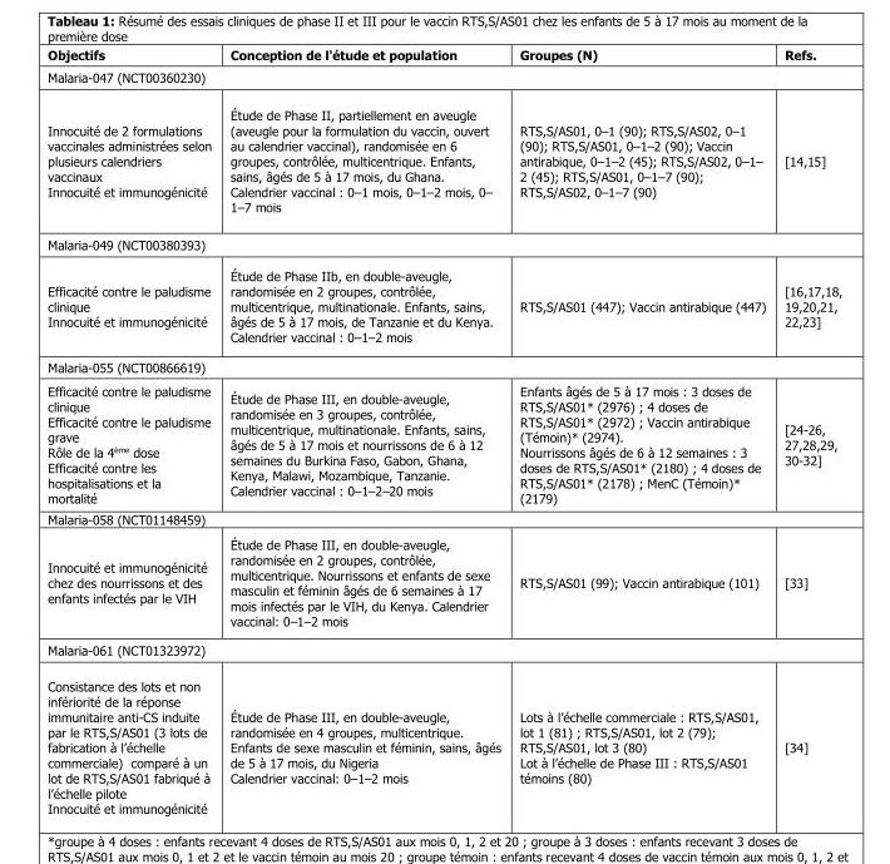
<table><thead><tr><td>Objectifs</td><td>Conception de l&#x27;étude et population</td><td>Groupes (N)</td><td>Refs.</td></tr></thead><tbody><tr><td colspan="4">Malaria-047 (NCT00360230)</td></tr><tr><td>Innocuité de 2 formulations vaccinales administrées selon plusieurs calendriers vaccinaux Innocuité et immunogénicité</td><td>Étude de Phase II, partiellement en aveugle (aveugle pour la formulation du vaccin, ouvert au calendrier vaccinal), randomisée en 6 groupes, contrôlée, multicentrique. Enfants, sains, âgés de 5 à 17 mois, du Ghana. Calendrier vaccinal : 0–1 mois, 0–1–2 mois, 0– 1–7 mois</td><td>RTS,S/AS01, 0–1 (90); RTS,S/AS02, 0–1 (90); RTS,S/AS01, 0–1–2 (90); Vaccin antirabique, 0–1–2 (45); RTS,S/AS02, 0–1– 2 (45); RTS,S/AS01, 0–1–7 (90); RTS,S/AS02, 0–1–7 (90)</td><td>[14,15]</td></tr><tr><td colspan="4">Malaria-049 (NCT00380393)</td></tr><tr><td>Efficacité contre le paludisme clinique Innocuité et immunogénicité</td><td>Étude de Phase IIb, en double-aveugle, randomisée en 2 groupes, contrôlée, multicentrique, multinationale. Enfants, sains, âgés de 5 à 17 mois, de Tanzanie et du Kenya. Calendrier vaccinal : 0–1–2 mois</td><td>RTS,S/AS01 (447); Vaccin antirabique (447)</td><td>[16,17,18, 19,20,21, 22,23]</td></tr><tr><td colspan="4">Malaria-055 (NCT00866619)</td></tr><tr><td>Efficacité contre le paludisme clinique Efficacité contre le paludisme grave Rôle de la 4<sup>ème</sup> dose Efficacité contre les hospitalisations et la mortalité</td><td>Étude de Phase III, en double-aveugle, randomisée en 3 groupes, contrôlée, multicentrique, multinationale. Enfants, sains, âgés de 5 à 17 mois et nourrissons de 6 à 12 semaines du Burkina Faso, Gabon, Ghana, Kenya, Malawi, Mozambique, Tanzanie. Calendrier vaccinal : 0–1–2–20 mois</td><td>Enfants âgés de 5 à 17 mois : 3 doses de RTS,S/AS01* (2976) ; 4 doses de RTS,S/AS01* (2972) ; Vaccin antirabique (Témoin)* (2974). Nourrissons âgés de 6 à 12 semaines : 3 doses de RTS,S/AS01* (2180) ; 4 doses de RTS,S/AS01* (2178) ; MenC (Témoin)* (2179)</td><td>[24-26, 27,28,29, 30-32]</td></tr><tr><td colspan="4">Malaria-058 (NCT01148459)</td></tr><tr><td>Innocuité et immunogénicité chez des nourrissons et des enfants infectés par le VIH</td><td>Étude de Phase III, en double-aveugle, randomisée en 2 groupes, contrôlée, multicentrique. Nourrissons et enfants de sexe masculin et féminin âgés de 6 semaines à 17 mois infectés par le VIH, du Kenya. Calendrier vaccinal: 0–1–2 mois</td><td>RTS,S/AS01 (99); Vaccin antirabique (101)</td><td>[33]</td></tr><tr><td colspan="4">Malaria-061 (NCT01323972)</td></tr><tr><td>Consistance des lots et non infériorité de la réponse immunitaire anti-CS induite par le RTS,S/AS01 (3 lots de fabrication à l’échelle commerciale) comparé à un lot de RTS,S/AS01 fabriqué à l’échelle pilote Innocuité et immunogénicité</td><td>Étude de Phase III, en double-aveugle, randomisée en 4 groupes, multicentrique. Enfants de sexe masculin et féminin, sains, âgés de 5 à 17 mois, du Nigeria Calendrier vaccinal: 0–1–2 mois</td><td>Lots à l’échelle commerciale : RTS,S/AS01, lot 1 (81) ; RTS,S/AS01, lot 2 (79); RTS,S/AS01, lot 3 (80) Lot à l’échelle de Phase III : RTS,S/AS01 témoins (80)</td><td>[34]</td></tr></tbody></table>